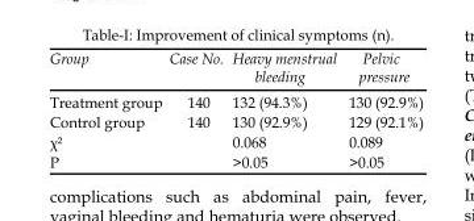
<table><thead><tr><td>Group</td><td>Case No.</td><td>Heavy menstrual bleeding</td><td>Pelvic pressure</td></tr></thead><tbody><tr><td>Treatment group</td><td>140</td><td>132 (94.3%)</td><td>130 (92.9%)</td></tr><tr><td>Control group</td><td>140</td><td>130 (92.9%)</td><td>129 (92.1%)</td></tr><tr><td>χ²</td><td></td><td>0.068</td><td>0.089</td></tr><tr><td>P</td><td></td><td>&gt;0.05</td><td>&gt;0.05</td></tr></tbody></table>